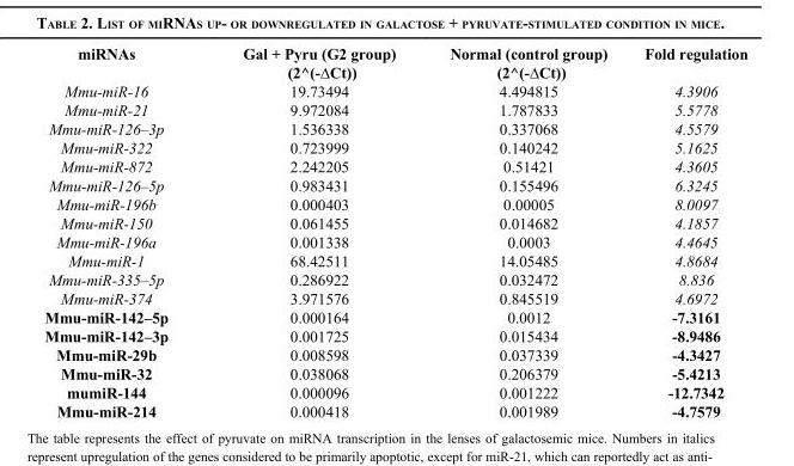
<table><thead><tr><td>miRNAs</td><td>Gal + Pyru (G2 group) (2^(-∆Ct))</td><td>Normal (control group) (2^(-∆Ct))</td><td>Fold regulation</td></tr></thead><tbody><tr><td>Mmu-miR-16</td><td>19.73494</td><td>4.494815</td><td>4.3906</td></tr><tr><td>Mmu-miR-21</td><td>9.972084</td><td>1.787833</td><td>5.5778</td></tr><tr><td>Mmu-miR-126–3p</td><td>1.536338</td><td>0.337068</td><td>4.5579</td></tr><tr><td>Mmu-miR-322</td><td>0.723999</td><td>0.140242</td><td>5.1625</td></tr><tr><td>Mmu-miR-872</td><td>2.242205</td><td>0.51421</td><td>4.3605</td></tr><tr><td>Mmu-miR-126–5p</td><td>0.983431</td><td>0.155496</td><td>6.3245</td></tr><tr><td>Mmu-miR-196b</td><td>0.000403</td><td>0.00005</td><td>8.0097</td></tr><tr><td>Mmu-miR-150</td><td>0.061455</td><td>0.014682</td><td>4.1857</td></tr><tr><td>Mmu-miR-196a</td><td>0.001338</td><td>0.0003</td><td>4.4645</td></tr><tr><td>Mmu-miR-1</td><td>68.42511</td><td>14.05485</td><td>4.8684</td></tr><tr><td>Mmu-miR-335–5p</td><td>0.286922</td><td>0.032472</td><td>8.836</td></tr><tr><td>Mmu-miR-374</td><td>3.971576</td><td>0.845519</td><td>4.6972</td></tr><tr><td>Mmu-miR-142–5p</td><td>0.000164</td><td>0.0012</td><td>-7.3161</td></tr><tr><td>Mmu-miR-142–3p</td><td>0.001725</td><td>0.015434</td><td>-8.9486</td></tr><tr><td>Mmu-miR-29b</td><td>0.008598</td><td>0.037339</td><td>-4.3427</td></tr><tr><td>Mmu-miR-32</td><td>0.038068</td><td>0.206379</td><td>-5.4213</td></tr><tr><td>mumiR-144</td><td>0.000096</td><td>0.001222</td><td>-12.7342</td></tr><tr><td>Mmu-miR-214</td><td>0.000418</td><td>0.001989</td><td>-4.7579</td></tr></tbody></table>